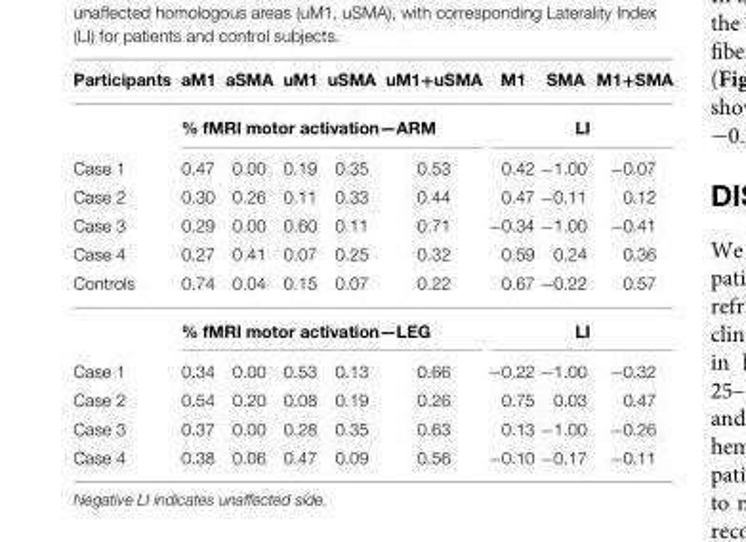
<table><thead><tr><td>Participants</td><td>aM1</td><td>aSMA</td><td>uM1</td><td>uSMA</td><td>uM1+uSMA</td><td>M1</td><td>SMA</td><td>M1+SMA</td></tr></thead><tbody><tr><td></td><td colspan="5">% fMRI motor activation—ARM</td><td colspan="3">LI</td></tr><tr><td>Case 1</td><td>0.47</td><td>0.00</td><td>0.19</td><td>0.35</td><td>0.53</td><td>0.42</td><td>−1.00</td><td>−0.07</td></tr><tr><td>Case 2</td><td>0.30</td><td>0.26</td><td>0.11</td><td>0.33</td><td>0.44</td><td>0.47</td><td>−0.11</td><td>0.12</td></tr><tr><td>Case 3</td><td>0.29</td><td>0.00</td><td>0.60</td><td>0.11</td><td>0.71</td><td>−0.34</td><td>−1.00</td><td>−0.41</td></tr><tr><td>Case 4</td><td>0.27</td><td>0.41</td><td>0.07</td><td>0.25</td><td>0.32</td><td>0.59</td><td>0.24</td><td>0.36</td></tr><tr><td rowspan="2">Controls</td><td>0.74</td><td>0.04</td><td>0.15</td><td>0.07</td><td>0.22</td><td>0.67</td><td>−0.22</td><td>0.57</td></tr><tr><td colspan="5">% fMRI motor activation—LEG</td><td colspan="3">LI</td></tr><tr><td>Case 1</td><td>0.34</td><td>0.00</td><td>0.53</td><td>0.13</td><td>0.66</td><td>−0.22</td><td>−1.00</td><td>−0.32</td></tr><tr><td>Case 2</td><td>0.54</td><td>0.20</td><td>0.08</td><td>0.19</td><td>0.26</td><td>0.75</td><td>0.03</td><td>0.47</td></tr><tr><td>Case 3</td><td>0.37</td><td>0.00</td><td>0.28</td><td>0.35</td><td>0.63</td><td>0.13</td><td>−1.00</td><td>−0.26</td></tr><tr><td>Case 4</td><td>0.38</td><td>0.06</td><td>0.47</td><td>0.09</td><td>0.56</td><td>−0.10</td><td>−0.17</td><td>−0.11</td></tr></tbody></table>